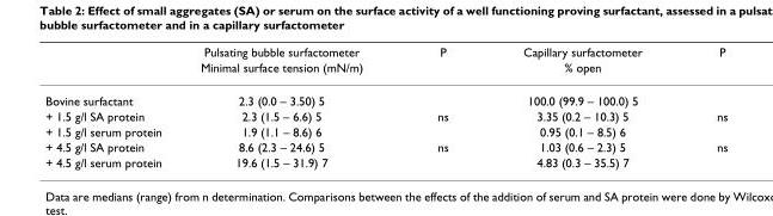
<table><thead><tr><td rowspan="2"></td><td rowspan="2">Pulsating bubble surfactometer Minimal surface tension (mN/m)</td><td rowspan="2">P</td><td rowspan="2">Capillary surfactometer % open</td><td rowspan="2">P</td></tr><tr></tr></thead><tbody><tr><td>Bovine surfactant</td><td>2.3 (0.0 – 3.50) 5</td><td></td><td>100.0 (99.9 – 100.0) 5</td><td></td></tr><tr><td>+ 1.5 g/l SA protein</td><td>2.3 (1.5 – 6.6) 5</td><td>ns</td><td>3.35 (0.2 – 10.3) 5</td><td>ns</td></tr><tr><td>+ 1.5 g/l serum protein</td><td>1.9 (1.1 – 8.6) 6</td><td></td><td>0.95 (0.1 – 8.5) 6</td><td></td></tr><tr><td>+ 4.5 g/l SA protein</td><td>8.6 (2.3 – 24.6) 5</td><td>ns</td><td>1.03 (0.6 – 2.3) 5</td><td>ns</td></tr><tr><td>+ 4.5 g/l serum protein</td><td>19.6 (1.5 – 31.9) 7</td><td></td><td>4.83 (0.3 – 35.5) 7</td><td></td></tr></tbody></table>